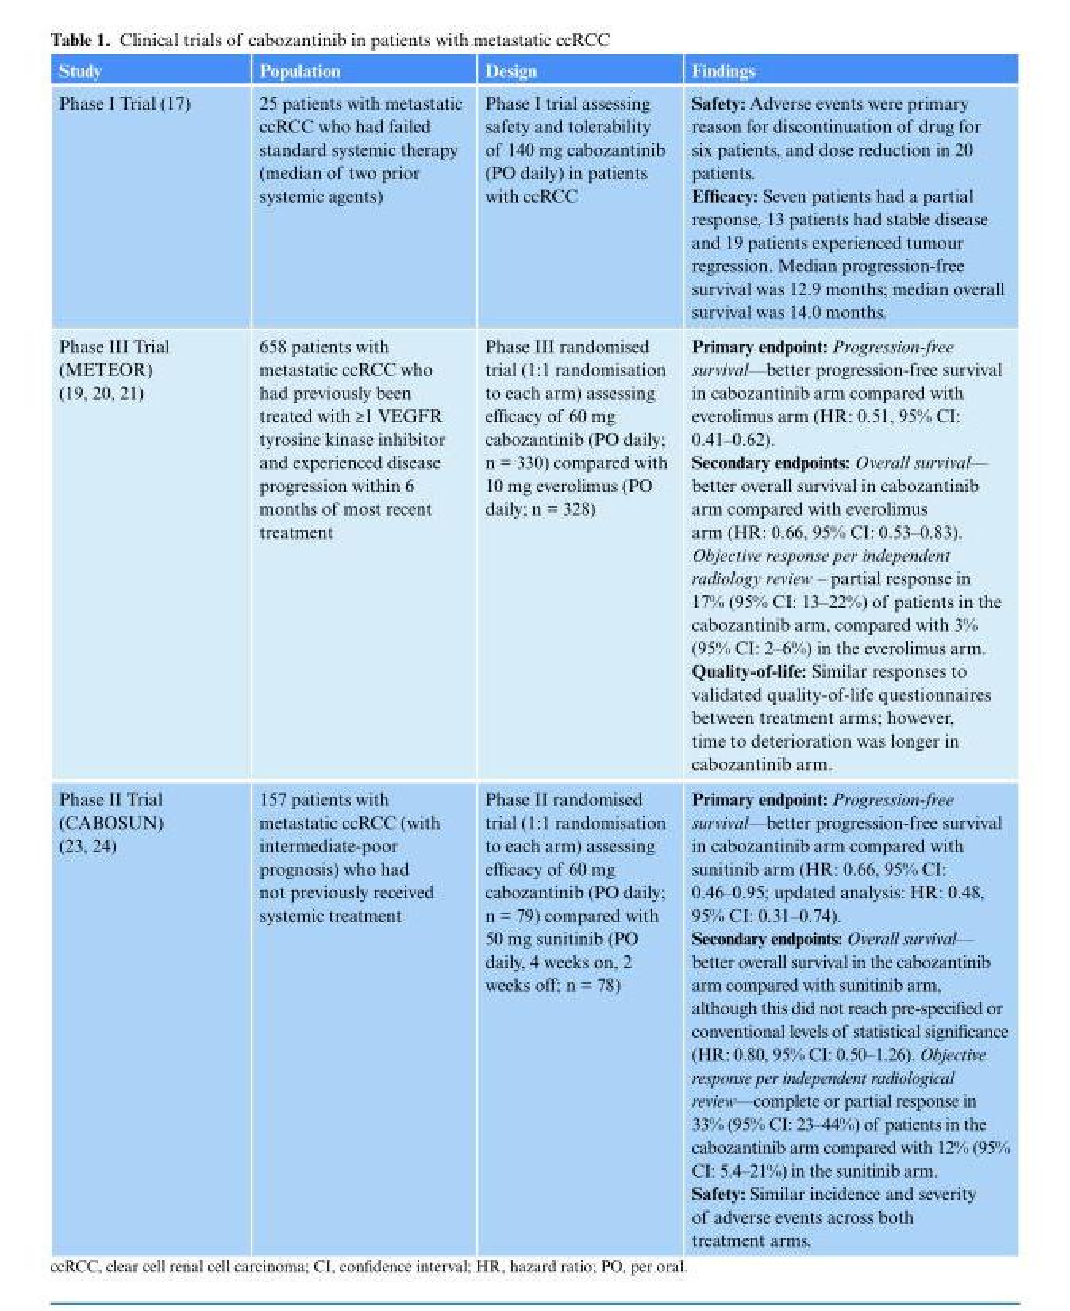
<table><thead><tr><td>Study</td><td>Population</td><td>Design</td><td>Findings</td></tr></thead><tbody><tr><td>Phase I Trial (17)</td><td>25 patients with metastatic ccRCC who had failed standard systemic therapy (median of two prior systemic agents)</td><td>Phase I trial assessing safety and tolerability of 140 mg cabozantinib (PO daily) in patients with ccRCC</td><td>Safety: Adverse events were primary reason for discontinuation of drug for six patients, and dose reduction in 20 patients. Efficacy: Seven patients had a partial response, 13 patients had stable disease and 19 patients experienced tumour regression. Median progression-free survival was 12.9 months; median overall survival was 14.0 months.</td></tr><tr><td>Phase III Trial (METEOR) (19, 20, 21)</td><td>658 patients with metastatic ccRCC who had previously been treated with ≥1 VEGFR tyrosine kinase inhibitor and experienced disease progression within 6 months of most recent treatment</td><td>Phase III randomised trial (1:1 randomisation to each arm) assessing efficacy of 60 mg cabozantinib (PO daily; n = 330) compared with 10 mg everolimus (PO daily; n = 328)</td><td>Primary endpoint: Progression-free survival—better progression-free survival in cabozantinib arm compared with everolimus arm (HR: 0.51, 95% CI: 0.41–0.62). Secondary endpoints: Overall survival— better overall survival in cabozantinib arm compared with everolimus arm (HR: 0.66, 95% CI: 0.53–0.83). Objective response per independent radiology review – partial response in 17% (95% CI: 13–22%) of patients in the cabozantinib arm, compared with 3% (95% CI: 2–6%) in the everolimus arm. Quality-of-life: Similar responses to validated quality-of-life questionnaires between treatment arms; however, time to deterioration was longer in cabozantinib arm.</td></tr><tr><td>Phase II Trial (CABOSUN) (23, 24)</td><td>157 patients with metastatic ccRCC (with intermediate-poor prognosis) who had not previously received systemic treatment</td><td>Phase II randomised trial (1:1 randomisation to each arm) assessing efficacy of 60 mg cabozantinib (PO daily; n = 79) compared with 50 mg sunitinib (PO daily, 4 weeks on, 2 weeks off; n = 78)</td><td>Primary endpoint: Progression-free survival—better progression-free survival in cabozantinib arm compared with sunitinib arm (HR: 0.66, 95% CI: 0.46–0.95; updated analysis: HR: 0.48, 95% CI: 0.31–0.74). Secondary endpoints: Overall survival— better overall survival in the cabozantinib arm compared with sunitinib arm, although this did not reach pre-specified or conventional levels of statistical significance (HR: 0.80, 95% CI: 0.50–1.26). Objective response per independent radiological review—complete or partial response in 33% (95% CI: 23–44%) of patients in the cabozantinib arm compared with 12% (95% CI: 5.4–21%) in the sunitinib arm. Safety: Similar incidence and severity of adverse events across both treatment arms.</td></tr></tbody></table>